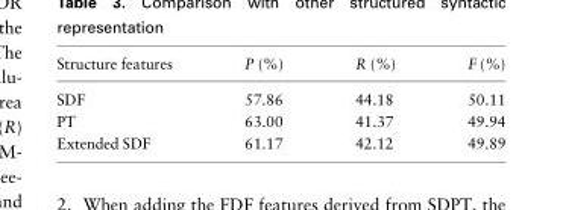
<table><thead><tr><td>Structure features</td><td>P (%)</td><td>R (%)</td><td>F (%)</td></tr></thead><tbody><tr><td>SDF</td><td>57.86</td><td>44.18</td><td>50.11</td></tr><tr><td>PT</td><td>63.00</td><td>41.37</td><td>49.94</td></tr><tr><td>Extended SDF</td><td>61.17</td><td>42.12</td><td>49.89</td></tr></tbody></table>